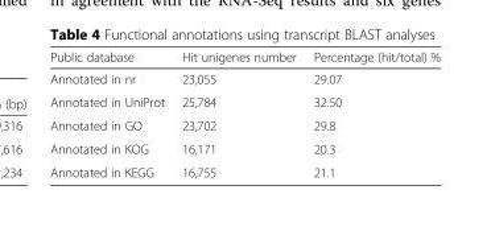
<table><thead><tr><td>Public database</td><td>Hit unigenes number</td><td>Percentage (hit/total) %</td></tr></thead><tbody><tr><td>Annotated in nr</td><td>23,055</td><td>29.07</td></tr><tr><td>Annotated in UniProt</td><td>25,784</td><td>32.50</td></tr><tr><td>Annotated in GO</td><td>23,702</td><td>29.8</td></tr><tr><td>Annotated in KOG</td><td>16,171</td><td>20.3</td></tr><tr><td>Annotated in KEGG</td><td>16,755</td><td>21.1</td></tr></tbody></table>